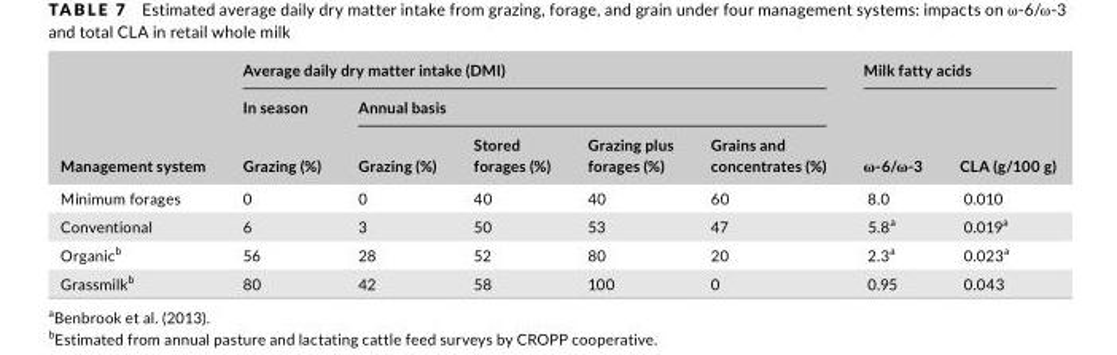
<table><thead><tr><td rowspan="3">Management system</td><td colspan="5">Average daily dry matter intake (DMI)</td><td colspan="2">Milk fatty acids</td></tr><tr><td rowspan="2">In season Grazing (%)</td><td colspan="4">Annual basis</td><td rowspan="2">ω- 6/ω- 3</td><td rowspan="2">CLA (g/100 g)</td></tr><tr><td>Grazing (%)</td><td>Stored forages (%)</td><td>Grazing plus forages (%)</td><td>Grains and concentrates (%)</td></tr></thead><tbody><tr><td>Minimum forages</td><td>0</td><td>0</td><td>40</td><td>40</td><td>60</td><td>8.0</td><td>0.010</td></tr><tr><td>Conventional</td><td>6</td><td>3</td><td>50</td><td>53</td><td>47</td><td>5.8<sup>a</sup></td><td>0.019<sup>a</sup></td></tr><tr><td>Organic<sup>b</sup></td><td>56</td><td>28</td><td>52</td><td>80</td><td>20</td><td>2.3<sup>a</sup></td><td>0.023<sup>a</sup></td></tr><tr><td>Grassmilk<sup>b</sup></td><td>80</td><td>42</td><td>58</td><td>100</td><td>0</td><td>0.95</td><td>0.043</td></tr></tbody></table>